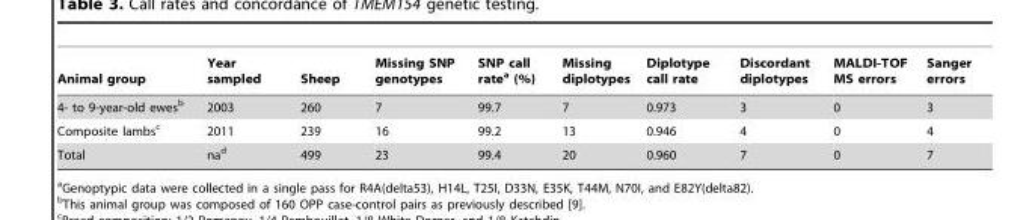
<table><thead><tr><td>Animal group</td><td>Year sampled</td><td>Sheep</td><td>Missing SNP genotypes</td><td>SNP call rate<sup>a</sup> (%)</td><td>Missing diplotypes</td><td>Diplotype call rate</td><td>Discordant diplotypes</td><td>MALDI-TOF MS errors</td><td>Sanger errors</td></tr></thead><tbody><tr><td>4- to 9-year-old ewes<sup>b</sup></td><td>2003</td><td>260</td><td>7</td><td>99.7</td><td>7</td><td>0.973</td><td>3</td><td>0</td><td>3</td></tr><tr><td>Composite lambs<sup>c</sup></td><td>2011</td><td>239</td><td>16</td><td>99.2</td><td>13</td><td>0.946</td><td>4</td><td>0</td><td>4</td></tr><tr><td>Total</td><td>na<sup>d</sup></td><td>499</td><td>23</td><td>99.4</td><td>20</td><td>0.960</td><td>7</td><td>0</td><td>7</td></tr></tbody></table>